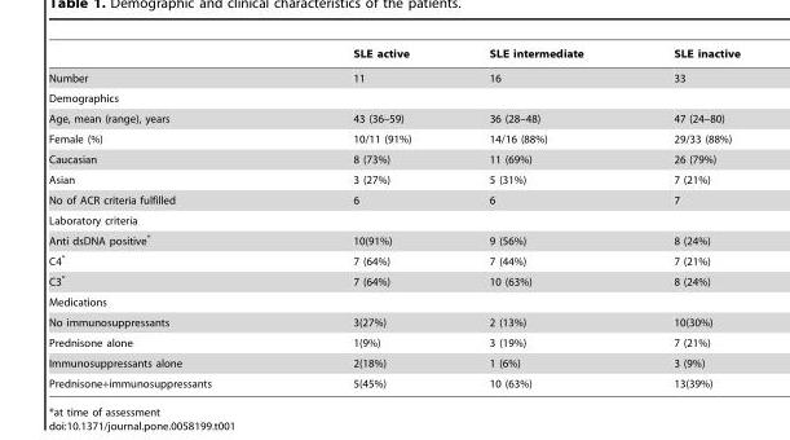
<table><thead><tr><td></td><td>SLE active</td><td>SLE intermediate</td><td>SLE inactive</td></tr></thead><tbody><tr><td>Number</td><td>11</td><td>16</td><td>33</td></tr><tr><td colspan="4">Demographics</td></tr><tr><td>Age, mean (range), years</td><td>43 (36–59)</td><td>36 (28–48)</td><td>47 (24–80)</td></tr><tr><td>Female (%)</td><td>10/11 (91%)</td><td>14/16 (88%)</td><td>29/33 (88%)</td></tr><tr><td>Caucasian</td><td>8 (73%)</td><td>11 (69%)</td><td>26 (79%)</td></tr><tr><td>Asian</td><td>3 (27%)</td><td>5 (31%)</td><td>7 (21%)</td></tr><tr><td>No of ACR criteria fulfilled</td><td>6</td><td>6</td><td>7</td></tr><tr><td colspan="4">Laboratory criteria</td></tr><tr><td>Anti dsDNA positive*</td><td>10(91%)</td><td>9 (56%)</td><td>8 (24%)</td></tr><tr><td>C4*</td><td>7 (64%)</td><td>7 (44%)</td><td>7 (21%)</td></tr><tr><td>C3*</td><td>7 (64%)</td><td>10 (63%)</td><td>8 (24%)</td></tr><tr><td colspan="4">Medications</td></tr><tr><td>No immunosuppressants</td><td>3(27%)</td><td>2 (13%)</td><td>10(30%)</td></tr><tr><td>Prednisone alone</td><td>1(9%)</td><td>3 (19%)</td><td>7 (21%)</td></tr><tr><td>Immunosuppressants alone</td><td>2(18%)</td><td>1 (6%)</td><td>3 (9%)</td></tr><tr><td>Prednisone+immunosuppressants</td><td>5(45%)</td><td>10 (63%)</td><td>13(39%)</td></tr></tbody></table>